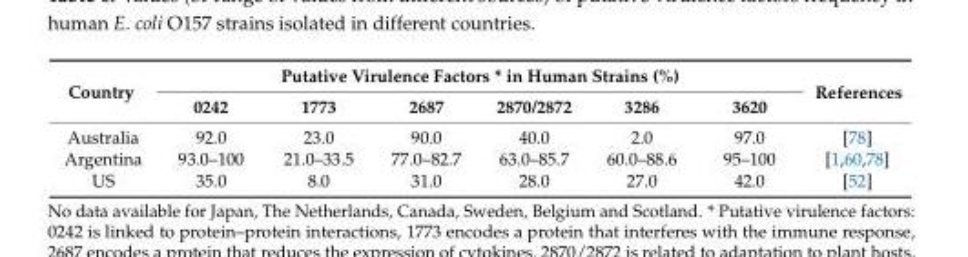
<table><tbody><tr><td rowspan="2">Country</td><td colspan="6">Putative Virulence Factors * in Human Strains (%)</td><td rowspan="2">References</td></tr><tr><td>0242</td><td>1773</td><td>2687</td><td>2870/2872</td><td>3286</td><td>3620</td></tr><tr><td>Australia</td><td>92.0</td><td>23.0</td><td>90.0</td><td>40.0</td><td>2.0</td><td>97.0</td><td>[78]</td></tr><tr><td>Argentina</td><td>93.0–100</td><td>21.0–33.5</td><td>77.0–82.7</td><td>63.0–85.7</td><td>60.0–88.6</td><td>95–100</td><td>[1,60,78]</td></tr><tr><td>US</td><td>35.0</td><td>8.0</td><td>31.0</td><td>28.0</td><td>27.0</td><td>42.0</td><td>[52]</td></tr></tbody></table>